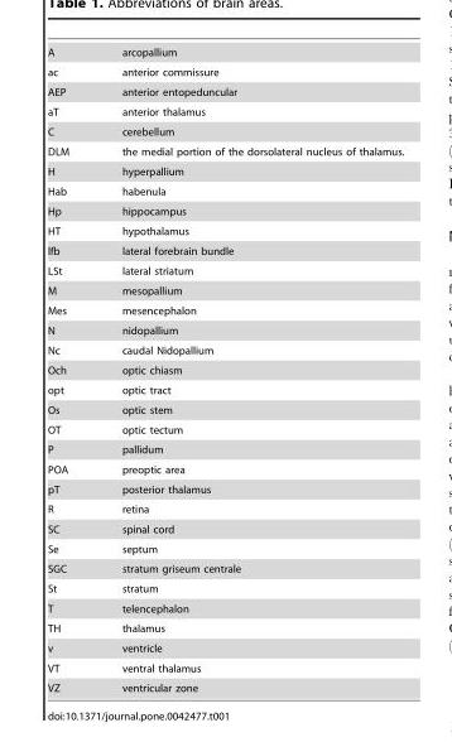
<table><tbody><tr><td>A</td><td>arcopallium</td></tr><tr><td>ac</td><td>anterior commissure</td></tr><tr><td>AEP</td><td>anterior entopeduncular</td></tr><tr><td>aT</td><td>anterior thalamus</td></tr><tr><td>C</td><td>cerebellum</td></tr><tr><td>DLM</td><td>the medial portion of the dorsolateral nucleus of thalamus.</td></tr><tr><td>H</td><td>hyperpallium</td></tr><tr><td>Hab</td><td>habenula</td></tr><tr><td>Hp</td><td>hippocampus</td></tr><tr><td>HT</td><td>hypothalamus</td></tr><tr><td>lfb</td><td>lateral forebrain bundle</td></tr><tr><td>LSt</td><td>lateral striatum</td></tr><tr><td>M</td><td>mesopallium</td></tr><tr><td>Mes</td><td>mesencephalon</td></tr><tr><td>N</td><td>nidopallium</td></tr><tr><td>Nc</td><td>caudal Nidopallium</td></tr><tr><td>Och</td><td>optic chiasm</td></tr><tr><td>opt</td><td>optic tract</td></tr><tr><td>Os</td><td>optic stem</td></tr><tr><td>OT</td><td>optic tectum</td></tr><tr><td>P</td><td>pallidum</td></tr><tr><td>POA</td><td>preoptic area</td></tr><tr><td>pT</td><td>posterior thalamus</td></tr><tr><td>R</td><td>retina</td></tr><tr><td>SC</td><td>spinal cord</td></tr><tr><td>Se</td><td>septum</td></tr><tr><td>SGC</td><td>stratum griseum centrale</td></tr><tr><td>St</td><td>stratum</td></tr><tr><td>T</td><td>telencephalon</td></tr><tr><td>TH</td><td>thalamus</td></tr><tr><td>v</td><td>ventricle</td></tr><tr><td>VT</td><td>ventral thalamus</td></tr><tr><td>VZ</td><td>ventricular zone</td></tr></tbody></table>